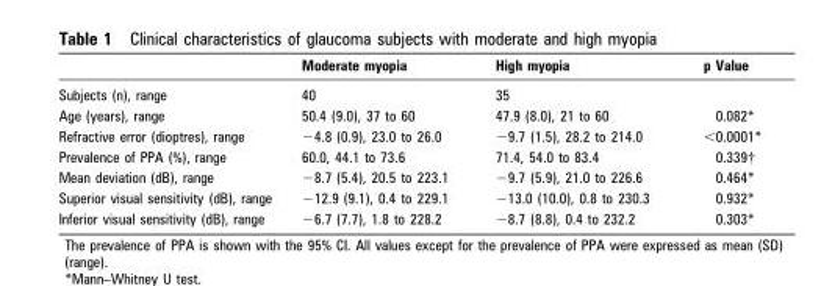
<table><thead><tr><td></td><td>Moderate myopia</td><td>High myopia</td><td>p Value</td></tr></thead><tbody><tr><td>Subjects (n), range</td><td>40</td><td>35</td><td></td></tr><tr><td>Age (years), range</td><td>50.4 (9.0), 37 to 60</td><td>47.9 (8.0), 21 to 60</td><td>0.082*</td></tr><tr><td>Refractive error (dioptres), range</td><td>−4.8 (0.9), 23.0 to 26.0</td><td>−9.7 (1.5), 28.2 to 214.0</td><td>&lt;0.0001*</td></tr><tr><td>Prevalence of PPA (%), range</td><td>60.0, 44.1 to 73.6</td><td>71.4, 54.0 to 83.4</td><td>0.339†</td></tr><tr><td>Mean deviation (dB), range</td><td>−8.7 (5.4), 20.5 to 223.1</td><td>−9.7 (5.9), 21.0 to 226.6</td><td>0.464*</td></tr><tr><td>Superior visual sensitivity (dB), range</td><td>−12.9 (9.1), 0.4 to 229.1</td><td>−13.0 (10.0), 0.8 to 230.3</td><td>0.932*</td></tr><tr><td>Inferior visual sensitivity (dB), range</td><td>−6.7 (7.7), 1.8 to 228.2</td><td>−8.7 (8.8), 0.4 to 232.2</td><td>0.303*</td></tr></tbody></table>